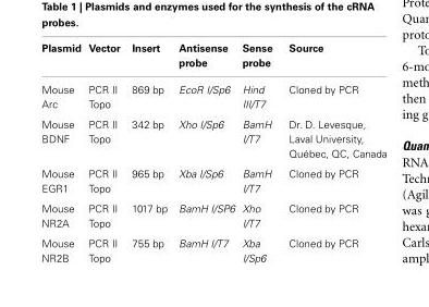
<table><thead><tr><td>Plasmid</td><td>Vector</td><td>Insert</td><td>Antisense probe</td><td>Sense probe</td><td>Source</td></tr></thead><tbody><tr><td>Mouse Arc</td><td>PCR II Topo</td><td>869 bp</td><td>EcoR I/Sp6</td><td>Hind III/T7</td><td>Cloned by PCR</td></tr><tr><td>Mouse BDNF</td><td>PCR II Topo</td><td>342 bp</td><td>Xho I/Sp6</td><td>BamH I/T7</td><td>Dr. D. Levesque, Laval University, Québec, QC, Canada</td></tr><tr><td>Mouse EGR1</td><td>PCR II Topo</td><td>965 bp</td><td>Xba I/Sp6</td><td>BamH I/T7</td><td>Cloned by PCR</td></tr><tr><td>Mouse NR2A</td><td>PCR II Topo</td><td>1017 bp</td><td>BamH I/SP6</td><td>Xho I/T7</td><td>Cloned by PCR</td></tr><tr><td>Mouse NR2B</td><td>PCR II Topo</td><td>755 bp</td><td>BamH I/T7</td><td>Xba I/Sp6</td><td>Cloned by PCR</td></tr></tbody></table>